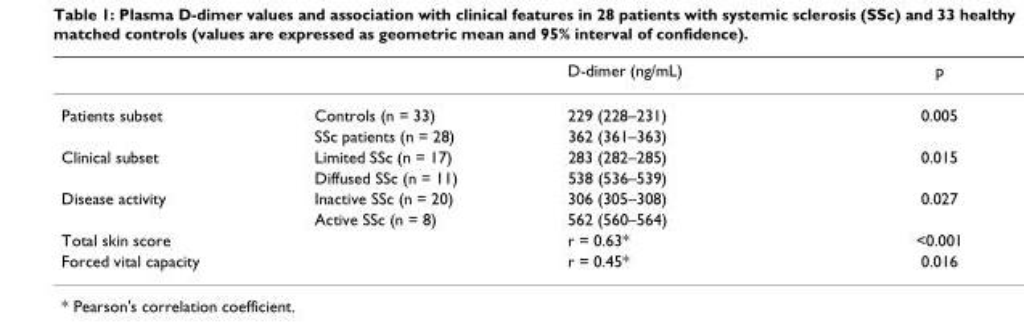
<table><thead><tr><td></td><td></td><td>D-dimer (ng/mL)</td><td>p</td></tr></thead><tbody><tr><td rowspan="2">Patients subset</td><td>Controls (n = 33)</td><td>229 (228–231)</td><td>0.005</td></tr><tr><td>SSc patients (n = 28)</td><td>362 (361–363)</td><td></td></tr><tr><td rowspan="2">Clinical subset</td><td>Limited SSc (n = 17)</td><td>283 (282–285)</td><td>0.015</td></tr><tr><td>Diffused SSc (n = 11)</td><td>538 (536–539)</td><td></td></tr><tr><td rowspan="2">Disease activity</td><td>Inactive SSc (n = 20)</td><td>306 (305–308)</td><td>0.027</td></tr><tr><td>Active SSc (n = 8)</td><td>562 (560–564)</td><td></td></tr><tr><td>Total skin score</td><td></td><td>r = 0.63*</td><td>&lt;0.001</td></tr><tr><td>Forced vital capacity</td><td></td><td>r = 0.45*</td><td>0.016</td></tr></tbody></table>